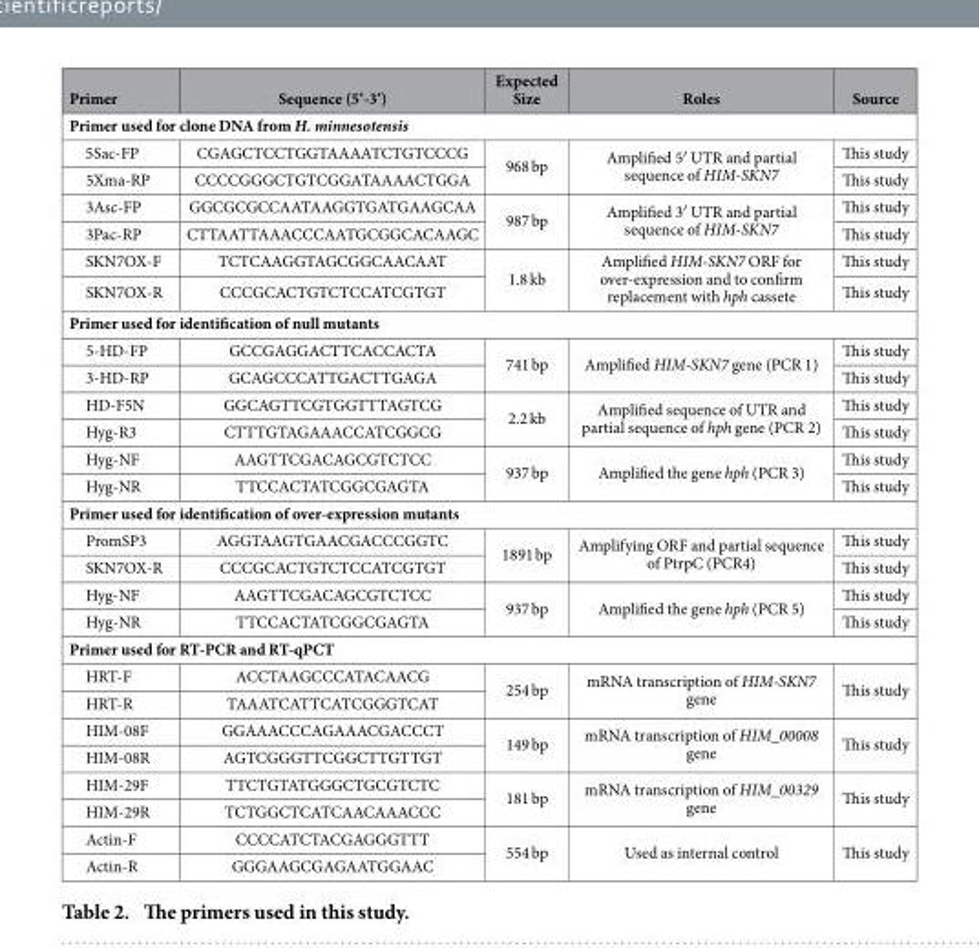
<table><thead><tr><td>Primer</td><td>Sequence (5’-3’)</td><td>Expected Size</td><td>Roles</td><td>Source</td></tr></thead><tbody><tr><td colspan="5">Primer used for clone DNA from H. minnesotensis</td></tr><tr><td>5Sac-FP</td><td>CGAGCTCCTGGTAAAATCTGTCCCG</td><td rowspan="2">968 bp</td><td rowspan="2">Amplified 5′ UTR and partial sequence of HIM-SKN7</td><td>This study</td></tr><tr><td>5Xma-RP</td><td>CCCCGGGCTGTCGGATAAAACTGGA</td><td>This study</td></tr><tr><td>3Asc-FP</td><td>GGCGCGCCAATAAGGTGATGAAGCAA</td><td rowspan="2">987 bp</td><td rowspan="2">Amplified 3′ UTR and partial sequence of HIM-SKN7</td><td>This study</td></tr><tr><td>3Pac-RP</td><td>CTTAATTAAACCCAATGCGGCACAAGC</td><td>This study</td></tr><tr><td>SKN7OX-F</td><td>TCTCAAGGTAGCGGCAACAAT</td><td rowspan="2">1.8 kb</td><td rowspan="2">Amplified HIM-SKN7 ORF for over-expression and to confirm replacement with hph cassete</td><td>This study</td></tr><tr><td>SKN7OX-R</td><td>CCCGCACTGTCTCCATCGTGT</td><td>This study</td></tr><tr><td colspan="5">Primer used for identification of null mutants</td></tr><tr><td>5-HD-FP</td><td>GCCGAGGACTTCACCACTA</td><td rowspan="2">741 bp</td><td rowspan="2">Amplified HIM-SKN7 gene (PCR 1)</td><td>This study</td></tr><tr><td>3-HD-RP</td><td>GCAGCCCATTGACTTGAGA</td><td>This study</td></tr><tr><td>HD-F5N</td><td>GGCAGTTCGTGGTTTAGTCG</td><td rowspan="2">2.2 kb</td><td rowspan="2">Amplified sequence of UTR and partial sequence of hph gene (PCR 2)</td><td>This study</td></tr><tr><td>Hyg-R3</td><td>CTTTGTAGAAACCATCGGCG</td><td>This study</td></tr><tr><td>Hyg-NF</td><td>AAGTTCGACAGCGTCTCC</td><td rowspan="2">937 bp</td><td rowspan="2">Amplified the gene hph (PCR 3)</td><td>This study</td></tr><tr><td>Hyg-NR</td><td>TTCCACTATCGGCGAGTA</td><td>This study</td></tr><tr><td colspan="5">Primer used for identification of over-expression mutants</td></tr><tr><td>PromSP3</td><td>AGGTAAGTGAACGACCCGGTC</td><td rowspan="2">1891 bp</td><td rowspan="2">Amplifying ORF and partial sequence of PtrpC (PCR4)</td><td>This study</td></tr><tr><td>SKN7OX-R</td><td>CCCGCACTGTCTCCATCGTGT</td><td>This study</td></tr><tr><td>Hyg-NF</td><td>AAGTTCGACAGCGTCTCC</td><td rowspan="2">937 bp</td><td rowspan="2">Amplified the gene hph (PCR 5)</td><td>This study</td></tr><tr><td>Hyg-NR</td><td>TTCCACTATCGGCGAGTA</td><td>This study</td></tr><tr><td colspan="5">Primer used for RT-PCR and RT-qPCT</td></tr><tr><td>HRT-F</td><td>ACCTAAGCCCATACAACG</td><td rowspan="2">254 bp</td><td rowspan="2">mRNA transcription of HIM-SKN7 gene</td><td rowspan="2">This study</td></tr><tr><td>HRT-R</td><td>TAAATCATTCATCGGGTCAT</td></tr><tr><td>HIM-08F</td><td>GGAAACCCAGAAACGACCCT</td><td rowspan="2">149 bp</td><td rowspan="2">mRNA transcription of HIM_00008 gene</td><td rowspan="2">This study</td></tr><tr><td>HIM-08R</td><td>AGTCGGGTTCGGCTTGTTGT</td></tr><tr><td>HIM-29F</td><td>TTCTGTATGGGCTGCGTCTC</td><td rowspan="2">181 bp</td><td rowspan="2">mRNA transcription of HIM_00329 gene</td><td rowspan="2">This study</td></tr><tr><td>HIM-29R</td><td>TCTGGCTCATCAACAAACCC</td></tr><tr><td>Actin-F</td><td>CCCCATCTACGAGGGTTT</td><td rowspan="2">554 bp</td><td rowspan="2">Used as internal control</td><td rowspan="2">This study</td></tr><tr><td>Actin-R</td><td>GGGAAGCGAGAATGGAAC</td></tr></tbody></table>